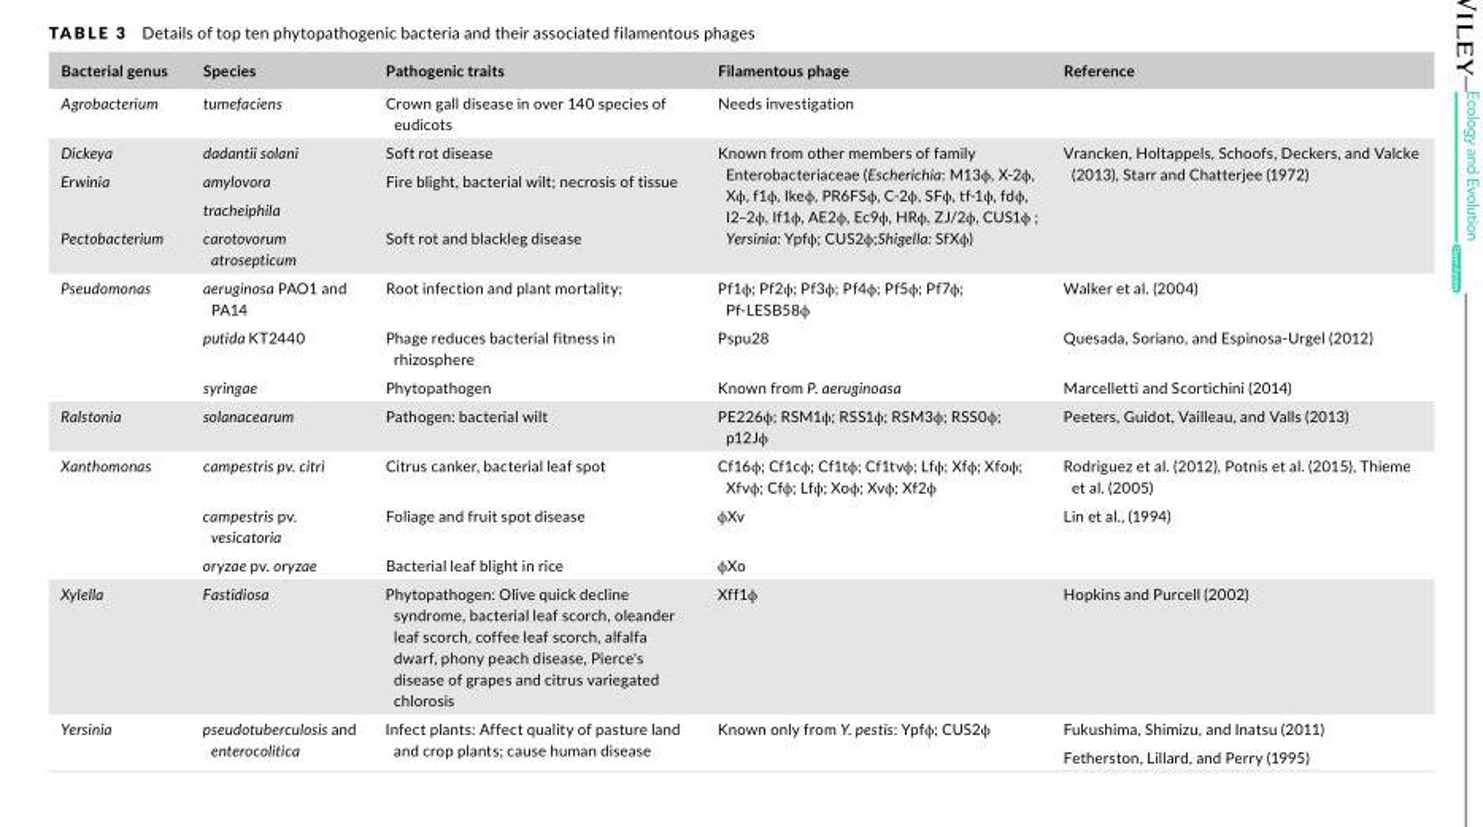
<table><thead><tr><td>Bacterial genus</td><td>Species</td><td>Pathogenic traits</td><td>Filamentous phage</td><td>Reference</td></tr></thead><tbody><tr><td>Agrobacterium</td><td>tumefaciens</td><td>Crown gall disease in over 140 species of eudicots</td><td>Needs investigation</td><td></td></tr><tr><td>Dickeya</td><td>dadantii solani</td><td>Soft rot disease</td><td rowspan="4">Known from other members of family Enterobacteriaceae (Escherichia: M13ϕ, X‐2ϕ, Xϕ, f1ϕ, Ikeϕ, PR6FSϕ, C‐2ϕ, SFϕ, tf‐1ϕ, fdϕ, I2–2ϕ, If1ϕ, AE2ϕ, Ec9ϕ, HRϕ, ZJ/2ϕ, CUS1ϕ ; Yersinia: Ypfϕ; CUS2ϕ;Shigella: SfXϕ)</td><td rowspan="4">Vrancken, Holtappels, Schoofs, Deckers, and Valcke (2013), Starr and Chatterjee (1972)</td></tr><tr><td rowspan="2">Erwinia</td><td>amylovora</td><td rowspan="2">Fire blight, bacterial wilt; necrosis of tissue</td></tr><tr><td>tracheiphila</td></tr><tr><td>Pectobacterium</td><td>carotovorum atrosepticum</td><td>Soft rot and blackleg disease</td></tr><tr><td rowspan="3">Pseudomonas</td><td>aeruginosa PAO1 and PA14</td><td>Root infection and plant mortality;</td><td>Pf1ϕ; Pf2ϕ; Pf3ϕ; Pf4ϕ; Pf5ϕ; Pf7ϕ; Pf‐LESB58ϕ</td><td>Walker et al. (2004)</td></tr><tr><td>putida KT2440</td><td>Phage reduces bacterial fitness in rhizosphere</td><td>Pspu28</td><td>Quesada, Soriano, and Espinosa‐Urgel (2012)</td></tr><tr><td>syringae</td><td>Phytopathogen</td><td>Known from P. aeruginoasa</td><td>Marcelletti and Scortichini (2014)</td></tr><tr><td>Ralstonia</td><td>solanacearum</td><td>Pathogen: bacterial wilt</td><td>PE226ϕ; RSM1ϕ; RSS1ϕ; RSM3ϕ; RSS0ϕ; p12Jϕ</td><td>Peeters, Guidot, Vailleau, and Valls (2013)</td></tr><tr><td rowspan="3">Xanthomonas</td><td>campestris pv. citri</td><td>Citrus canker, bacterial leaf spot</td><td>Cf16ϕ; Cf1cϕ; Cf1tϕ; Cf1tvϕ; Lfϕ; Xfϕ; Xfoϕ; Xfvϕ; Cfϕ; Lfϕ; Xoϕ; Xvϕ; Xf2ϕ</td><td>Rodriguez et al. (2012), Potnis et al. (2015), Thieme et al. (2005)</td></tr><tr><td>campestris pv. vesicatoria</td><td>Foliage and fruit spot disease</td><td>ϕXv</td><td rowspan="2">Lin et al., (1994)</td></tr><tr><td>oryzae pv. oryzae</td><td>Bacterial leaf blight in rice</td><td>ϕXo</td></tr><tr><td>Xylella</td><td>Fastidiosa</td><td>Phytopathogen: Olive quick decline syndrome, bacterial leaf scorch, oleander leaf scorch, coffee leaf scorch, alfalfa dwarf, phony peach disease, Pierce&#x27;s disease of grapes and citrus variegated chlorosis</td><td>Xff1ϕ</td><td>Hopkins and Purcell (2002)</td></tr><tr><td rowspan="2">Yersinia</td><td rowspan="2">pseudotuberculosis and enterocolitica</td><td rowspan="2">Infect plants: Affect quality of pasture land and crop plants; cause human disease</td><td rowspan="2">Known only from Y. pestis: Ypfϕ; CUS2ϕ</td><td>Fukushima, Shimizu, and Inatsu (2011)</td></tr><tr><td>Fetherston, Lillard, and Perry (1995)</td></tr></tbody></table>